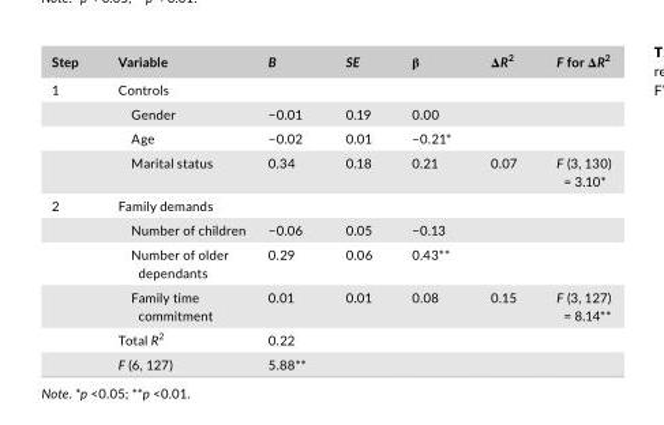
<table><thead><tr><td>Step</td><td>Variable</td><td>B</td><td>SE</td><td>β</td><td>ΔR<sup>2</sup></td><td>F for ΔR<sup>2</sup></td></tr></thead><tbody><tr><td rowspan="4">1</td><td>Controls</td><td></td><td></td><td></td><td></td><td></td></tr><tr><td>Gender</td><td>−0.01</td><td>0.19</td><td>0.00</td><td></td><td></td></tr><tr><td>Age</td><td>−0.02</td><td>0.01</td><td>−0.21*</td><td></td><td></td></tr><tr><td>Marital status</td><td>0.34</td><td>0.18</td><td>0.21</td><td>0.07</td><td>F (3, 130) = 3.10*</td></tr><tr><td rowspan="6">2</td><td>Family demands</td><td></td><td></td><td></td><td></td><td></td></tr><tr><td>Number of children</td><td>−0.06</td><td>0.05</td><td>−0.13</td><td></td><td></td></tr><tr><td>Number of older dependants</td><td>0.29</td><td>0.06</td><td>0.43**</td><td></td><td></td></tr><tr><td>Family time commitment</td><td>0.01</td><td>0.01</td><td>0.08</td><td>0.15</td><td>F (3, 127) = 8.14**</td></tr><tr><td>Total R<sup>2</sup></td><td>0.22</td><td></td><td></td><td></td><td></td></tr><tr><td>F (6, 127)</td><td>5.88**</td><td></td><td></td><td></td><td></td></tr></tbody></table>